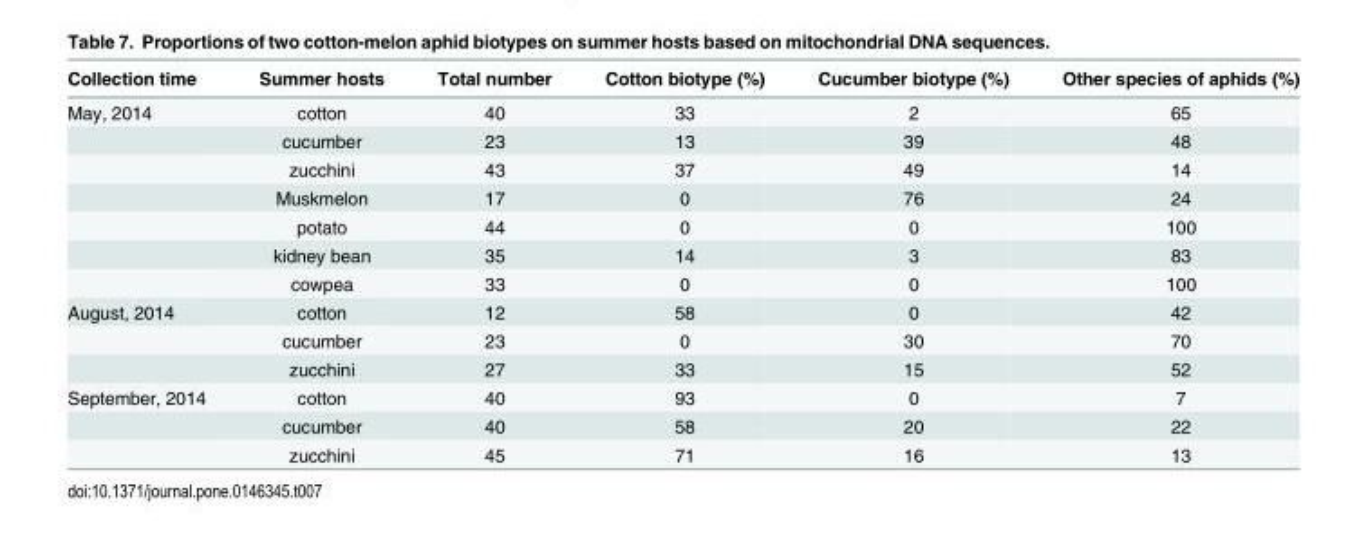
<table><thead><tr><td>Collection time</td><td>Summer hosts</td><td>Total number</td><td>Cotton biotype (%)</td><td>Cucumber biotype (%)</td><td>Other species of aphids (%)</td></tr></thead><tbody><tr><td rowspan="7">May, 2014</td><td>cotton</td><td>40</td><td>33</td><td>2</td><td>65</td></tr><tr><td>cucumber</td><td>23</td><td>13</td><td>39</td><td>48</td></tr><tr><td>zucchini</td><td>43</td><td>37</td><td>49</td><td>14</td></tr><tr><td>Muskmelon</td><td>17</td><td>0</td><td>76</td><td>24</td></tr><tr><td>potato</td><td>44</td><td>0</td><td>0</td><td>100</td></tr><tr><td>kidney bean</td><td>35</td><td>14</td><td>3</td><td>83</td></tr><tr><td>cowpea</td><td>33</td><td>0</td><td>0</td><td>100</td></tr><tr><td rowspan="3">August, 2014</td><td>cotton</td><td>12</td><td>58</td><td>0</td><td>42</td></tr><tr><td>cucumber</td><td>23</td><td>0</td><td>30</td><td>70</td></tr><tr><td>zucchini</td><td>27</td><td>33</td><td>15</td><td>52</td></tr><tr><td rowspan="3">September, 2014</td><td>cotton</td><td>40</td><td>93</td><td>0</td><td>7</td></tr><tr><td>cucumber</td><td>40</td><td>58</td><td>20</td><td>22</td></tr><tr><td>zucchini</td><td>45</td><td>71</td><td>16</td><td>13</td></tr></tbody></table>